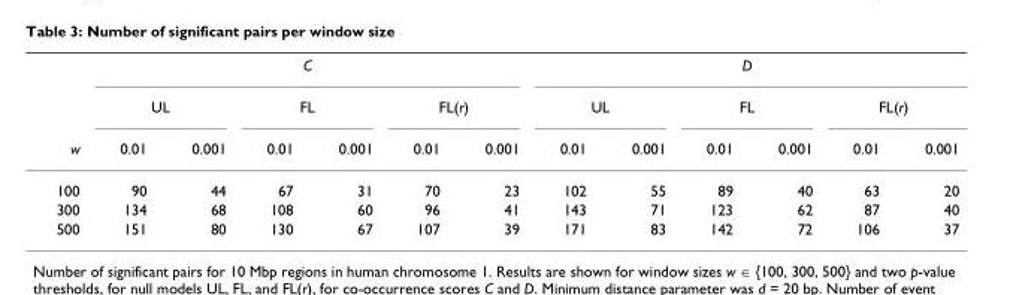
<table><thead><tr><td rowspan="3">w</td><td colspan="6">C</td><td colspan="6">D</td></tr><tr><td colspan="2">UL</td><td colspan="2">FL</td><td colspan="2">FL(r)</td><td colspan="2">UL</td><td colspan="2">FL</td><td colspan="2">FL(r)</td></tr><tr><td>0.01</td><td>0.001</td><td>0.01</td><td>0.001</td><td>0.01</td><td>0.001</td><td>0.01</td><td>0.001</td><td>0.01</td><td>0.001</td><td>0.01</td><td>0.001</td></tr></thead><tbody><tr><td>100</td><td>90</td><td>44</td><td>67</td><td>31</td><td>70</td><td>23</td><td>102</td><td>55</td><td>89</td><td>40</td><td>63</td><td>20</td></tr><tr><td>300</td><td>134</td><td>68</td><td>108</td><td>60</td><td>96</td><td>41</td><td>143</td><td>71</td><td>123</td><td>62</td><td>87</td><td>40</td></tr><tr><td>500</td><td>151</td><td>80</td><td>130</td><td>67</td><td>107</td><td>39</td><td>171</td><td>83</td><td>142</td><td>72</td><td>106</td><td>37</td></tr></tbody></table>